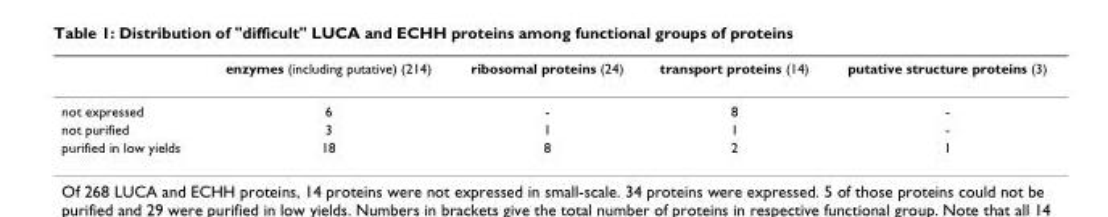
<table><thead><tr><td></td><td>enzymes (including putative) (214)</td><td>ribosomal proteins (24)</td><td>transport proteins (14)</td><td>putative structure proteins (3)</td></tr></thead><tbody><tr><td>not expressed</td><td>6</td><td>-</td><td>8</td><td>-</td></tr><tr><td>not purified</td><td>3</td><td>1</td><td>1</td><td>-</td></tr><tr><td>purified in low yields</td><td>18</td><td>8</td><td>2</td><td>1</td></tr></tbody></table>